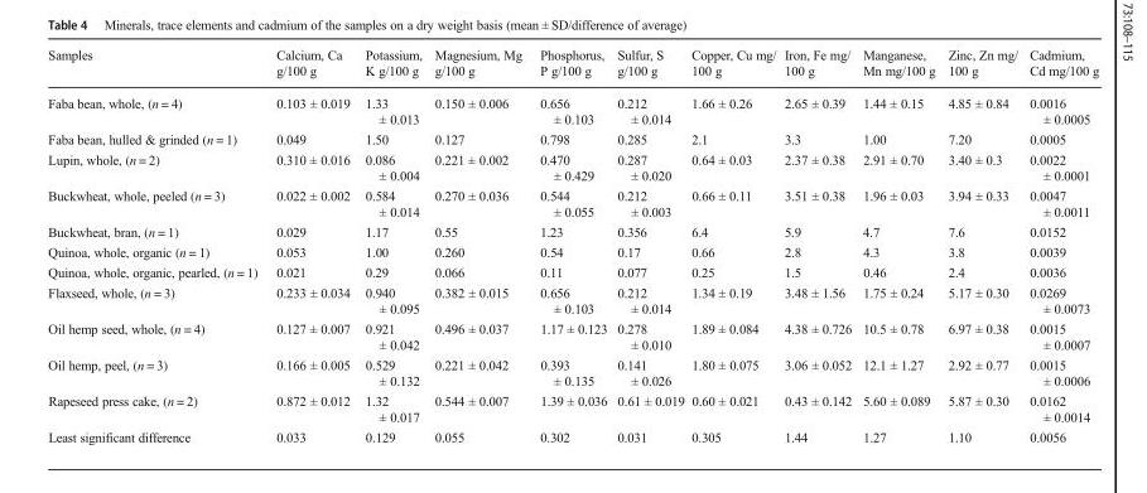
<table><thead><tr><td>Samples</td><td>Calcium, Ca g/100 g</td><td>Potassium, K g/100 g</td><td>Magnesium, Mg g/100 g</td><td>Phosphorus, P g/100 g</td><td>Sulfur, S g/100 g</td><td>Copper, Cu mg/ 100 g</td><td>Iron, Fe mg/ 100 g</td><td>Manganese, Mn mg/100 g</td><td>Zinc, Zn mg/ 100 g</td><td>Cadmium, Cd mg/100 g</td></tr></thead><tbody><tr><td>Faba bean, whole, (n = 4)</td><td>0.103 ± 0.019</td><td>1.33 ± 0.013</td><td>0.150 ± 0.006</td><td>0.656 ± 0.103</td><td>0.212 ± 0.014</td><td>1.66 ± 0.26</td><td>2.65 ± 0.39</td><td>1.44 ± 0.15</td><td>4.85 ± 0.84</td><td>0.0016 ± 0.0005</td></tr><tr><td>Faba bean, hulled &amp; grinded (n = 1)</td><td>0.049</td><td>1.50</td><td>0.127</td><td>0.798</td><td>0.285</td><td>2.1</td><td>3.3</td><td>1.00</td><td>7.20</td><td>0.0005</td></tr><tr><td>Lupin, whole, (n = 2)</td><td>0.310 ± 0.016</td><td>0.086 ± 0.004</td><td>0.221 ± 0.002</td><td>0.470 ± 0.429</td><td>0.287 ± 0.020</td><td>0.64 ± 0.03</td><td>2.37 ± 0.38</td><td>2.91 ± 0.70</td><td>3.40 ± 0.3</td><td>0.0022 ± 0.0001</td></tr><tr><td>Buckwheat, whole, peeled (n = 3)</td><td>0.022 ± 0.002</td><td>0.584 ± 0.014</td><td>0.270 ± 0.036</td><td>0.544 ± 0.055</td><td>0.212 ± 0.003</td><td>0.66 ± 0.11</td><td>3.51 ± 0.38</td><td>1.96 ± 0.03</td><td>3.94 ± 0.33</td><td>0.0047 ± 0.0011</td></tr><tr><td>Buckwheat, bran, (n = 1)</td><td>0.029</td><td>1.17</td><td>0.55</td><td>1.23</td><td>0.356</td><td>6.4</td><td>5.9</td><td>4.7</td><td>7.6</td><td>0.0152</td></tr><tr><td>Quinoa, whole, organic (n = 1)</td><td>0.053</td><td>1.00</td><td>0.260</td><td>0.54</td><td>0.17</td><td>0.66</td><td>2.8</td><td>4.3</td><td>3.8</td><td>0.0039</td></tr><tr><td>Quinoa, whole, organic, pearled, (n = 1)</td><td>0.021</td><td>0.29</td><td>0.066</td><td>0.11</td><td>0.077</td><td>0.25</td><td>1.5</td><td>0.46</td><td>2.4</td><td>0.0036</td></tr><tr><td>Flaxseed, whole, (n = 3)</td><td>0.233 ± 0.034</td><td>0.940 ± 0.095</td><td>0.382 ± 0.015</td><td>0.656 ± 0.103</td><td>0.212 ± 0.014</td><td>1.34 ± 0.19</td><td>3.48 ± 1.56</td><td>1.75 ± 0.24</td><td>5.17 ± 0.30</td><td>0.0269 ± 0.0073</td></tr><tr><td>Oil hemp seed, whole, (n = 4)</td><td>0.127 ± 0.007</td><td>0.921 ± 0.042</td><td>0.496 ± 0.037</td><td>1.17 ± 0.123</td><td>0.278 ± 0.010</td><td>1.89 ± 0.084</td><td>4.38 ± 0.726</td><td>10.5 ± 0.78</td><td>6.97 ± 0.38</td><td>0.0015 ± 0.0007</td></tr><tr><td>Oil hemp, peel, (n = 3)</td><td>0.166 ± 0.005</td><td>0.529 ± 0.132</td><td>0.221 ± 0.042</td><td>0.393 ± 0.135</td><td>0.141 ± 0.026</td><td>1.80 ± 0.075</td><td>3.06 ± 0.052</td><td>12.1 ± 1.27</td><td>2.92 ± 0.77</td><td>0.0015 ± 0.0006</td></tr><tr><td>Rapeseed press cake, (n = 2)</td><td>0.872 ± 0.012</td><td>1.32 ± 0.017</td><td>0.544 ± 0.007</td><td>1.39 ± 0.036</td><td>0.61 ± 0.019</td><td>0.60 ± 0.021</td><td>0.43 ± 0.142</td><td>5.60 ± 0.089</td><td>5.87 ± 0.30</td><td>0.0162 ± 0.0014</td></tr><tr><td>Least significant difference</td><td>0.033</td><td>0.129</td><td>0.055</td><td>0.302</td><td>0.031</td><td>0.305</td><td>1.44</td><td>1.27</td><td>1.10</td><td>0.0056</td></tr></tbody></table>